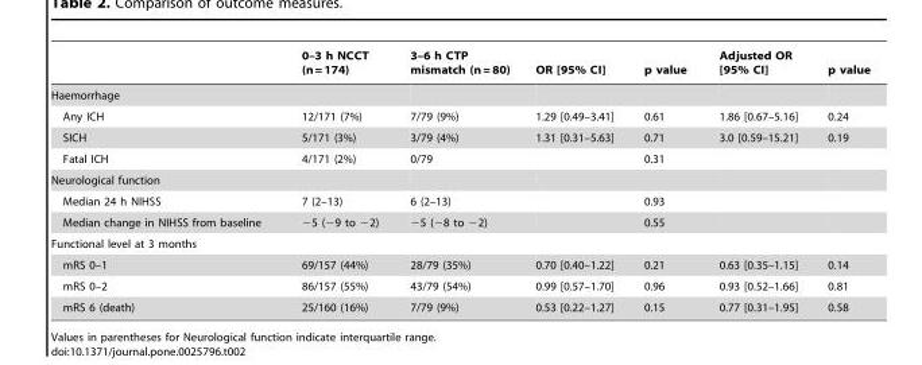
<table><thead><tr><td></td><td>0–3 h NCCT (n = 174)</td><td>3–6 h CTP mismatch (n = 80)</td><td>OR [95% CI]</td><td>p value</td><td>Adjusted OR [95% CI]</td><td>p value</td></tr></thead><tbody><tr><td colspan="7">Haemorrhage</td></tr><tr><td>Any ICH</td><td>12/171 (7%)</td><td>7/79 (9%)</td><td>1.29 [0.49–3.41]</td><td>0.61</td><td>1.86 [0.67–5.16]</td><td>0.24</td></tr><tr><td>SICH</td><td>5/171 (3%)</td><td>3/79 (4%)</td><td>1.31 [0.31–5.63]</td><td>0.71</td><td>3.0 [0.59–15.21]</td><td>0.19</td></tr><tr><td>Fatal ICH</td><td>4/171 (2%)</td><td>0/79</td><td></td><td>0.31</td><td></td><td></td></tr><tr><td colspan="7">Neurological function</td></tr><tr><td>Median 24 h NIHSS</td><td>7 (2–13)</td><td>6 (2–13)</td><td></td><td>0.93</td><td></td><td></td></tr><tr><td>Median change in NIHSS from baseline</td><td>−5 (−9 to −2)</td><td>−5 (−8 to −2)</td><td></td><td>0.55</td><td></td><td></td></tr><tr><td colspan="7">Functional level at 3 months</td></tr><tr><td>mRS 0–1</td><td>69/157 (44%)</td><td>28/79 (35%)</td><td>0.70 [0.40–1.22]</td><td>0.21</td><td>0.63 [0.35–1.15]</td><td>0.14</td></tr><tr><td>mRS 0–2</td><td>86/157 (55%)</td><td>43/79 (54%)</td><td>0.99 [0.57–1.70]</td><td>0.96</td><td>0.93 [0.52–1.66]</td><td>0.81</td></tr><tr><td>mRS 6 (death)</td><td>25/160 (16%)</td><td>7/79 (9%)</td><td>0.53 [0.22–1.27]</td><td>0.15</td><td>0.77 [0.31–1.95]</td><td>0.58</td></tr></tbody></table>